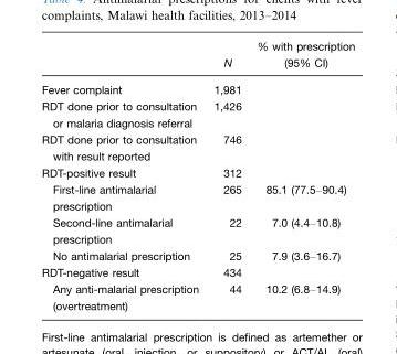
<table><thead><tr><td></td><td>N</td><td>% with prescription (95% CI)</td></tr></thead><tbody><tr><td>Fever complaint</td><td>1,981</td><td></td></tr><tr><td>RDT done prior to consultation or malaria diagnosis referral</td><td>1,426</td><td></td></tr><tr><td>RDT done prior to consultation with result reported</td><td>746</td><td></td></tr><tr><td>RDT-positive result</td><td>312</td><td></td></tr><tr><td>First-line antimalarial prescription</td><td>265</td><td>85.1 (77.5–90.4)</td></tr><tr><td>Second-line antimalarial prescription</td><td>22</td><td>7.0 (4.4–10.8)</td></tr><tr><td>No antimalarial prescription</td><td>25</td><td>7.9 (3.6–16.7)</td></tr><tr><td>RDT-negative result</td><td>434</td><td></td></tr><tr><td>Any anti-malarial prescription (overtreatment)</td><td>44</td><td>10.2 (6.8–14.9)</td></tr></tbody></table>